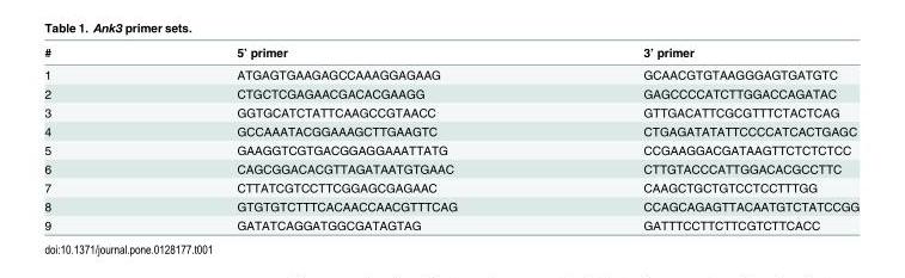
<table><thead><tr><td>#</td><td>5’ primer</td><td>3’ primer</td></tr></thead><tbody><tr><td>1</td><td>ATGAGTGAAGAGCCAAAGGAGAAG</td><td>GCAACGTGTAAGGGAGTGATGTC</td></tr><tr><td>2</td><td>CTGCTCGAGAACGACACGAAGG</td><td>GAGCCCCATCTTGGACCAGATAC</td></tr><tr><td>3</td><td>GGTGCATCTATTCAAGCCGTAACC</td><td>GTTGACATTCGCGTTTCTACTCAG</td></tr><tr><td>4</td><td>GCCAAATACGGAAAGCTTGAAGTC</td><td>CTGAGATATATTCCCCATCACTGAGC</td></tr><tr><td>5</td><td>GAAGGTCGTGACGGAGGAAATTATG</td><td>CCGAAGGACGATAAGTTCTCTCTCC</td></tr><tr><td>6</td><td>CAGCGGACACGTTAGATAATGTGAAC</td><td>CTTGTACCCATTGGACACGCCTTC</td></tr><tr><td>7</td><td>CTTATCGTCCTTCGGAGCGAGAAC</td><td>CAAGCTGCTGTCCTCCTTTGG</td></tr><tr><td>8</td><td>GTGTGTCTTTCACAACCAACGTTTCAG</td><td>CCAGCAGAGTTACAATGTCTATCCGG</td></tr><tr><td>9</td><td>GATATCAGGATGGCGATAGTAG</td><td>GATTTCCTTCTTCGTCTTCACC</td></tr></tbody></table>